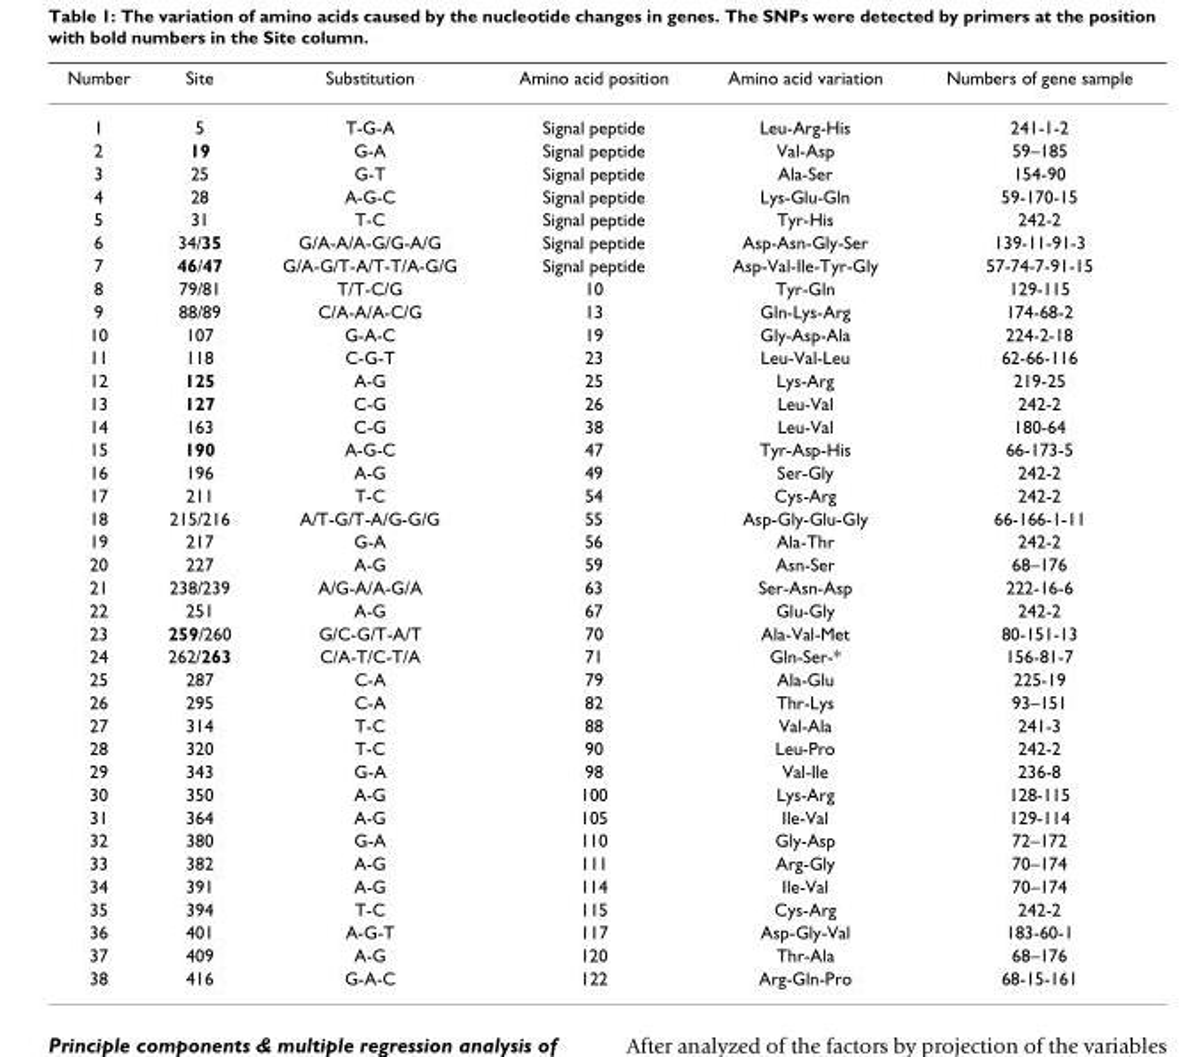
<table><thead><tr><td>Number</td><td>Site</td><td>Substitution</td><td>Amino acid position</td><td>Amino acid variation</td><td>Numbers of gene sample</td></tr></thead><tbody><tr><td>1</td><td>5</td><td>T-G-A</td><td>Signal peptide</td><td>Leu-Arg-His</td><td>241-1-2</td></tr><tr><td>2</td><td>19</td><td>G-A</td><td>Signal peptide</td><td>Val-Asp</td><td>59–185</td></tr><tr><td>3</td><td>25</td><td>G-T</td><td>Signal peptide</td><td>Ala-Ser</td><td>154-90</td></tr><tr><td>4</td><td>28</td><td>A-G-C</td><td>Signal peptide</td><td>Lys-Glu-Gln</td><td>59-170-15</td></tr><tr><td>5</td><td>31</td><td>T-C</td><td>Signal peptide</td><td>Tyr-His</td><td>242-2</td></tr><tr><td>6</td><td>34/35</td><td>G/A-A/A-G/G-A/G</td><td>Signal peptide</td><td>Asp-Asn-Gly-Ser</td><td>139-11-91-3</td></tr><tr><td>7</td><td>46/47</td><td>G/A-G/T-A/T-T/A-G/G</td><td>Signal peptide</td><td>Asp-Val-Ile-Tyr-Gly</td><td>57-74-7-91-15</td></tr><tr><td>8</td><td>79/81</td><td>T/T-C/G</td><td>10</td><td>Tyr-Gln</td><td>129-115</td></tr><tr><td>9</td><td>88/89</td><td>C/A-A/A-C/G</td><td>13</td><td>Gln-Lys-Arg</td><td>174-68-2</td></tr><tr><td>10</td><td>107</td><td>G-A-C</td><td>19</td><td>Gly-Asp-Ala</td><td>224-2-18</td></tr><tr><td>11</td><td>118</td><td>C-G-T</td><td>23</td><td>Leu-Val-Leu</td><td>62-66-116</td></tr><tr><td>12</td><td>125</td><td>A-G</td><td>25</td><td>Lys-Arg</td><td>219-25</td></tr><tr><td>13</td><td>127</td><td>C-G</td><td>26</td><td>Leu-Val</td><td>242-2</td></tr><tr><td>14</td><td>163</td><td>C-G</td><td>38</td><td>Leu-Val</td><td>180-64</td></tr><tr><td>15</td><td>190</td><td>A-G-C</td><td>47</td><td>Tyr-Asp-His</td><td>66-173-5</td></tr><tr><td>16</td><td>196</td><td>A-G</td><td>49</td><td>Ser-Gly</td><td>242-2</td></tr><tr><td>17</td><td>211</td><td>T-C</td><td>54</td><td>Cys-Arg</td><td>242-2</td></tr><tr><td>18</td><td>215/216</td><td>A/T-G/T-A/G-G/G</td><td>55</td><td>Asp-Gly-Glu-Gly</td><td>66-166-1-11</td></tr><tr><td>19</td><td>217</td><td>G-A</td><td>56</td><td>Ala-Thr</td><td>242-2</td></tr><tr><td>20</td><td>227</td><td>A-G</td><td>59</td><td>Asn-Ser</td><td>68–176</td></tr><tr><td>21</td><td>238/239</td><td>A/G-A/A-G/A</td><td>63</td><td>Ser-Asn-Asp</td><td>222-16-6</td></tr><tr><td>22</td><td>251</td><td>A-G</td><td>67</td><td>Glu-Gly</td><td>242-2</td></tr><tr><td>23</td><td>259/260</td><td>G/C-G/T-A/T</td><td>70</td><td>Ala-Val-Met</td><td>80-151-13</td></tr><tr><td>24</td><td>262/263</td><td>C/A-T/C-T/A</td><td>71</td><td>Gln-Ser-*</td><td>156-81-7</td></tr><tr><td>25</td><td>287</td><td>C-A</td><td>79</td><td>Ala-Glu</td><td>225-19</td></tr><tr><td>26</td><td>295</td><td>C-A</td><td>82</td><td>Thr-Lys</td><td>93–151</td></tr><tr><td>27</td><td>314</td><td>T-C</td><td>88</td><td>Val-Ala</td><td>241-3</td></tr><tr><td>28</td><td>320</td><td>T-C</td><td>90</td><td>Leu-Pro</td><td>242-2</td></tr><tr><td>29</td><td>343</td><td>G-A</td><td>98</td><td>Val-Ile</td><td>236-8</td></tr><tr><td>30</td><td>350</td><td>A-G</td><td>100</td><td>Lys-Arg</td><td>128-115</td></tr><tr><td>31</td><td>364</td><td>A-G</td><td>105</td><td>Ile-Val</td><td>129-114</td></tr><tr><td>32</td><td>380</td><td>G-A</td><td>110</td><td>Gly-Asp</td><td>72–172</td></tr><tr><td>33</td><td>382</td><td>A-G</td><td>111</td><td>Arg-Gly</td><td>70–174</td></tr><tr><td>34</td><td>391</td><td>A-G</td><td>114</td><td>Ile-Val</td><td>70–174</td></tr><tr><td>35</td><td>394</td><td>T-C</td><td>115</td><td>Cys-Arg</td><td>242-2</td></tr><tr><td>36</td><td>401</td><td>A-G-T</td><td>117</td><td>Asp-Gly-Val</td><td>183-60-1</td></tr><tr><td>37</td><td>409</td><td>A-G</td><td>120</td><td>Thr-Ala</td><td>68–176</td></tr><tr><td>38</td><td>416</td><td>G-A-C</td><td>122</td><td>Arg-Gln-Pro</td><td>68-15-161</td></tr></tbody></table>